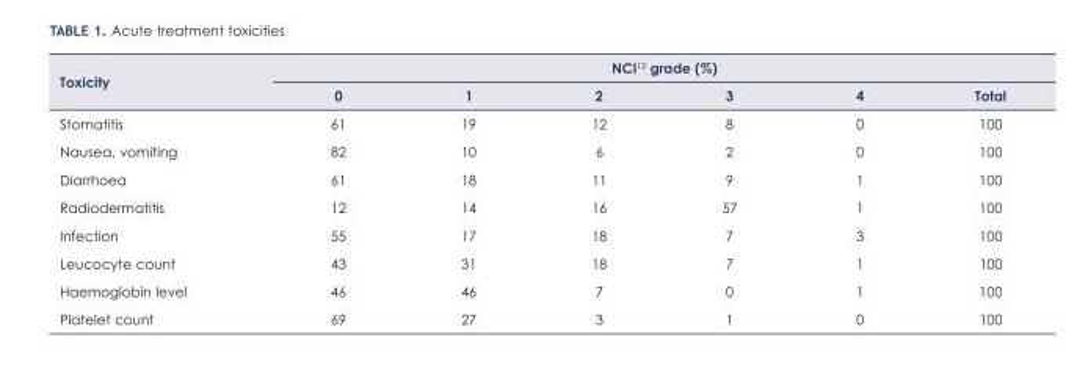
<table><thead><tr><td rowspan="2">Toxicity</td><td colspan="6">NCI<sup>12</sup> grade (%)</td></tr><tr><td>0</td><td>1</td><td>2</td><td>3</td><td>4</td><td>Total</td></tr></thead><tbody><tr><td>Stomatitis</td><td>61</td><td>19</td><td>12</td><td>8</td><td>0</td><td>100</td></tr><tr><td>Nausea, vomiting</td><td>82</td><td>10</td><td>6</td><td>2</td><td>0</td><td>100</td></tr><tr><td>Diarrhoea</td><td>61</td><td>18</td><td>11</td><td>9</td><td>1</td><td>100</td></tr><tr><td>Radiodermatitis</td><td>12</td><td>14</td><td>16</td><td>57</td><td>1</td><td>100</td></tr><tr><td>Infection</td><td>55</td><td>17</td><td>18</td><td>7</td><td>3</td><td>100</td></tr><tr><td>Leucocyte count</td><td>43</td><td>31</td><td>18</td><td>7</td><td>1</td><td>100</td></tr><tr><td>Haemoglobin level</td><td>46</td><td>46</td><td>7</td><td>0</td><td>1</td><td>100</td></tr><tr><td>Platelet count</td><td>69</td><td>27</td><td>3</td><td>1</td><td>0</td><td>100</td></tr></tbody></table>